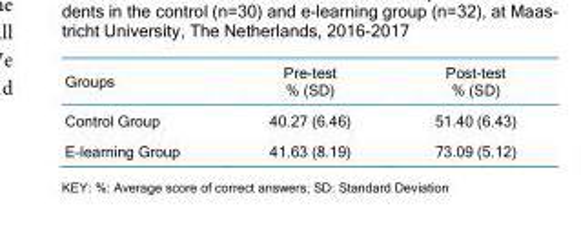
<table><thead><tr><td>Groups</td><td>Pre-test % (SD)</td><td>Post-test % (SD)</td></tr></thead><tbody><tr><td>Control Group</td><td>40.27 (6.46)</td><td>51.40 (6.43)</td></tr><tr><td>E-learning Group</td><td>41.63 (8.19)</td><td>73.09 (5.12)</td></tr></tbody></table>